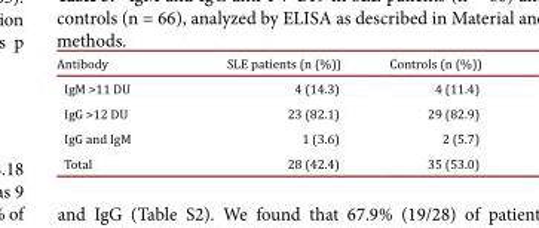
<table><thead><tr><td>Antibody</td><td>SLE patients (n (%))</td><td>Controls (n (%))</td></tr></thead><tbody><tr><td>IgM &gt;11 DU</td><td>4 (14.3)</td><td>4 (11.4)</td></tr><tr><td>IgG &gt;12 DU</td><td>23 (82.1)</td><td>29 (82.9)</td></tr><tr><td>IgG and IgM</td><td>1 (3.6)</td><td>2 (5.7)</td></tr><tr><td>Total</td><td>28 (42.4)</td><td>35 (53.0)</td></tr></tbody></table>